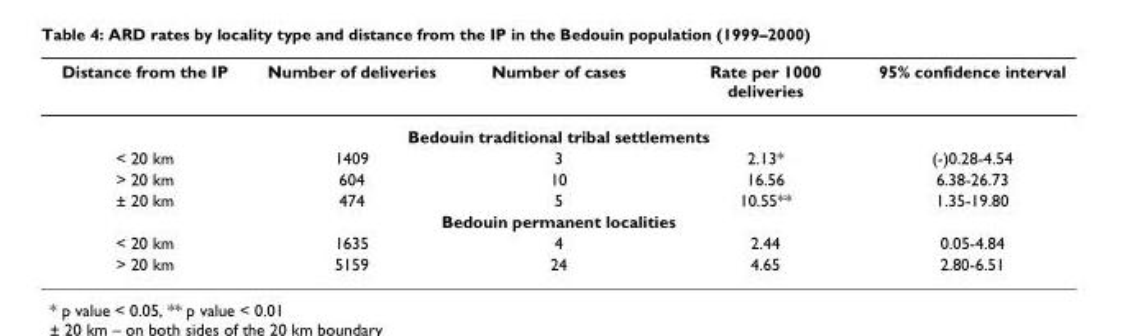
<table><thead><tr><td>Distance from the IP</td><td>Number of deliveries</td><td>Number of cases</td><td>Rate per 1000 deliveries</td><td>95% confidence interval</td></tr></thead><tbody><tr><td colspan="5">Bedouin traditional tribal settlements</td></tr><tr><td>&lt; 20 km</td><td>1409</td><td>3</td><td>2.13*</td><td>(-)0.28-4.54</td></tr><tr><td>&gt; 20 km</td><td>604</td><td>10</td><td>16.56</td><td>6.38-26.73</td></tr><tr><td>± 20 km</td><td>474</td><td>5</td><td>10.55**</td><td>1.35-19.80</td></tr><tr><td colspan="5">Bedouin permanent localities</td></tr><tr><td>&lt; 20 km</td><td>1635</td><td>4</td><td>2.44</td><td>0.05-4.84</td></tr><tr><td>&gt; 20 km</td><td>5159</td><td>24</td><td>4.65</td><td>2.80-6.51</td></tr></tbody></table>